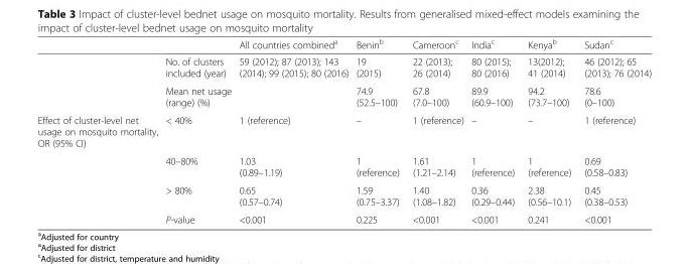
<table><thead><tr><td></td><td></td><td>All countries combined<sup>a</sup></td><td>Benin<sup>b</sup></td><td>Cameroon<sup>c</sup></td><td>India<sup>c</sup></td><td>Kenya<sup>b</sup></td><td>Sudan<sup>c</sup></td></tr></thead><tbody><tr><td></td><td>No. of clusters included (year)</td><td>59 (2012); 87 (2013); 143 (2014); 99 (2015); 80 (2016)</td><td>19 (2015)</td><td>22 (2013); 26 (2014)</td><td>80 (2015); 80 (2016)</td><td>13(2012); 41 (2014)</td><td>46 (2012); 65 (2013); 76 (2014)</td></tr><tr><td></td><td>Mean net usage (range) (%)</td><td></td><td>74.9 (52.5–100)</td><td>67.8 (7.0–100)</td><td>89.9 (60.9–100)</td><td>94.2 (73.7–100)</td><td>78.6 (0–100)</td></tr><tr><td rowspan="4">Effect of cluster-level net usage on mosquito mortality, OR (95% CI)</td><td>&lt; 40%</td><td>1 (reference)</td><td>–</td><td>1 (reference)</td><td>–</td><td>–</td><td>1 (reference)</td></tr><tr><td>40–80%</td><td>1.03 (0.89–1.19)</td><td>1 (reference)</td><td>1.61 (1.21–2.14)</td><td>1 (reference)</td><td>1 (reference)</td><td>0.69 (0.58–0.83)</td></tr><tr><td>&gt; 80%</td><td>0.65 (0.57–0.74)</td><td>1.59 (0.75–3.37)</td><td>1.40 (1.08–1.82)</td><td>0.36 (0.29–0.44)</td><td>2.38 (0.56–10.1)</td><td>0.45 (0.38–0.53)</td></tr><tr><td>P-value</td><td>&lt;0.001</td><td>0.225</td><td>&lt;0.001</td><td>&lt;0.001</td><td>0.241</td><td>&lt;0.001</td></tr></tbody></table>